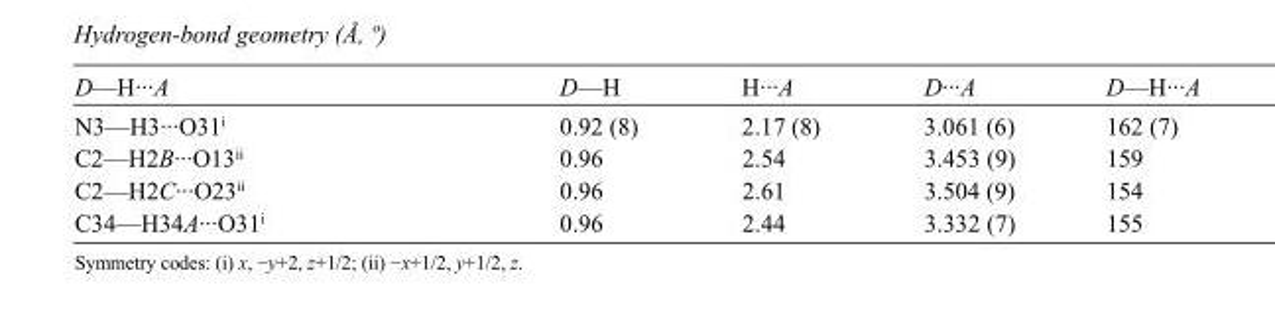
<table><tbody><tr><td>D—H···A</td><td>D—H</td><td>H···A</td><td>D···A</td><td>D—H···A</td></tr><tr><td>N3—H3···O31<sup>i</sup></td><td>0.92 (8)</td><td>2.17 (8)</td><td>3.061 (6)</td><td>162 (7)</td></tr><tr><td>C2—H2B···O13<sup>ii</sup></td><td>0.96</td><td>2.54</td><td>3.453 (9)</td><td>159</td></tr><tr><td>C2—H2C···O23<sup>ii</sup></td><td>0.96</td><td>2.61</td><td>3.504 (9)</td><td>154</td></tr><tr><td>C34—H34A···O31<sup>i</sup></td><td>0.96</td><td>2.44</td><td>3.332 (7)</td><td>155</td></tr></tbody></table>